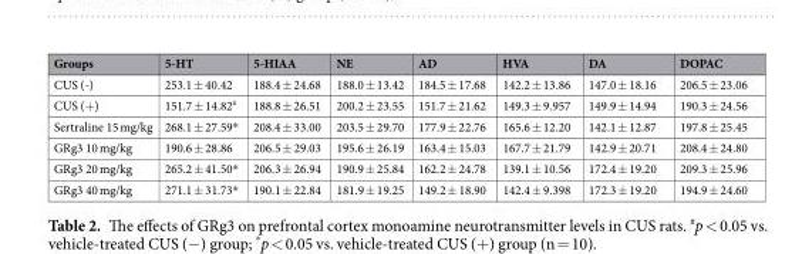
<table><thead><tr><td>Groups</td><td>5-HT</td><td>5-HIAA</td><td>NE</td><td>AD</td><td>HVA</td><td>DA</td><td>DOPAC</td></tr></thead><tbody><tr><td>CUS (-)</td><td>253.1 ± 40.42</td><td>188.4 ± 24.68</td><td>188.0 ± 13.42</td><td>184.5 ± 17.68</td><td>142.2 ± 13.86</td><td>147.0 ± 18.16</td><td>206.5 ± 23.06</td></tr><tr><td>CUS (+)</td><td>151.7 ± 14.82<sup>#</sup></td><td>188.8 ± 26.51</td><td>200.2 ± 23.55</td><td>151.7 ± 21.62</td><td>149.3 ± 9.957</td><td>149.9 ± 14.94</td><td>190.3 ± 24.56</td></tr><tr><td>Sertraline 15 mg/kg</td><td>268.1 ± 27.59*</td><td>208.4 ± 33.00</td><td>203.5 ± 29.70</td><td>177.9 ± 22.76</td><td>165.6 ± 12.20</td><td>142.1 ± 12.87</td><td>197.8 ± 25.45</td></tr><tr><td>GRg3 10 mg/kg</td><td>190.6 ± 28.86</td><td>206.5 ± 29.03</td><td>195.6 ± 26.19</td><td>163.4 ± 15.03</td><td>167.7 ± 21.79</td><td>142.9 ± 20.71</td><td>208.4 ± 24.80</td></tr><tr><td>GRg3 20 mg/kg</td><td>265.2 ± 41.50*</td><td>206.3 ± 26.94</td><td>190.9 ± 25.84</td><td>162.2 ± 24.78</td><td>139.1 ± 10.56</td><td>172.4 ± 19.20</td><td>209.3 ± 25.96</td></tr><tr><td>GRg3 40 mg/kg</td><td>271.1 ± 31.73*</td><td>190.1 ± 22.84</td><td>181.9 ± 19.25</td><td>149.2 ± 18.90</td><td>142.4 ± 9.398</td><td>172.3 ± 19.20</td><td>194.9 ± 24.60</td></tr></tbody></table>